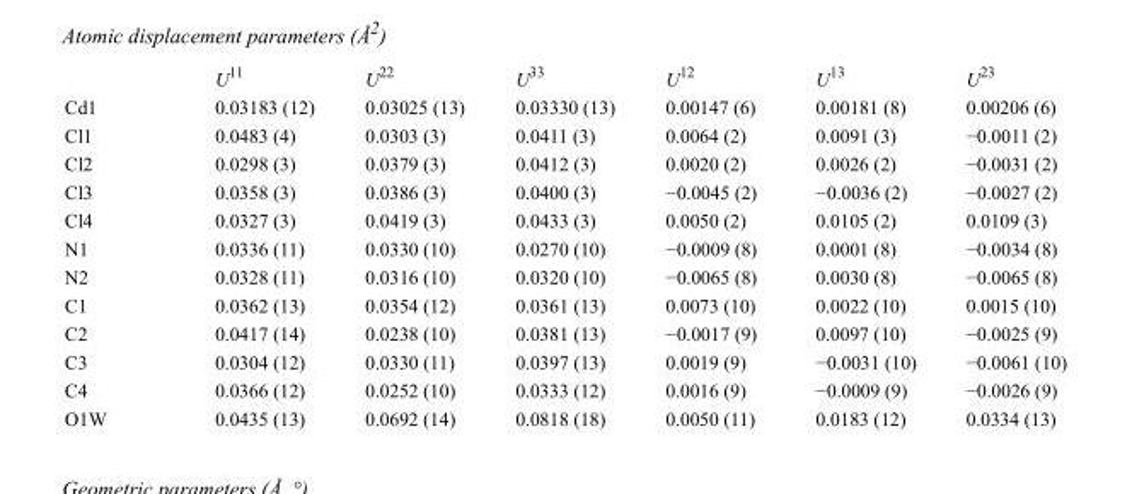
<table><thead><tr><td></td><td>U<sup>11</sup></td><td>U<sup>22</sup></td><td>U<sup>33</sup></td><td>U<sup>12</sup></td><td>U<sup>13</sup></td><td>U<sup>23</sup></td></tr></thead><tbody><tr><td>Cd1</td><td>0.03183 (12)</td><td>0.03025 (13)</td><td>0.03330 (13)</td><td>0.00147 (6)</td><td>0.00181 (8)</td><td>0.00206 (6)</td></tr><tr><td>Cl1</td><td>0.0483 (4)</td><td>0.0303 (3)</td><td>0.0411 (3)</td><td>0.0064 (2)</td><td>0.0091 (3)</td><td>−0.0011 (2)</td></tr><tr><td>Cl2</td><td>0.0298 (3)</td><td>0.0379 (3)</td><td>0.0412 (3)</td><td>0.0020 (2)</td><td>0.0026 (2)</td><td>−0.0031 (2)</td></tr><tr><td>Cl3</td><td>0.0358 (3)</td><td>0.0386 (3)</td><td>0.0400 (3)</td><td>−0.0045 (2)</td><td>−0.0036 (2)</td><td>−0.0027 (2)</td></tr><tr><td>Cl4</td><td>0.0327 (3)</td><td>0.0419 (3)</td><td>0.0433 (3)</td><td>0.0050 (2)</td><td>0.0105 (2)</td><td>0.0109 (3)</td></tr><tr><td>N1</td><td>0.0336 (11)</td><td>0.0330 (10)</td><td>0.0270 (10)</td><td>−0.0009 (8)</td><td>0.0001 (8)</td><td>−0.0034 (8)</td></tr><tr><td>N2</td><td>0.0328 (11)</td><td>0.0316 (10)</td><td>0.0320 (10)</td><td>−0.0065 (8)</td><td>0.0030 (8)</td><td>−0.0065 (8)</td></tr><tr><td>C1</td><td>0.0362 (13)</td><td>0.0354 (12)</td><td>0.0361 (13)</td><td>0.0073 (10)</td><td>0.0022 (10)</td><td>0.0015 (10)</td></tr><tr><td>C2</td><td>0.0417 (14)</td><td>0.0238 (10)</td><td>0.0381 (13)</td><td>−0.0017 (9)</td><td>0.0097 (10)</td><td>−0.0025 (9)</td></tr><tr><td>C3</td><td>0.0304 (12)</td><td>0.0330 (11)</td><td>0.0397 (13)</td><td>0.0019 (9)</td><td>−0.0031 (10)</td><td>−0.0061 (10)</td></tr><tr><td>C4</td><td>0.0366 (12)</td><td>0.0252 (10)</td><td>0.0333 (12)</td><td>0.0016 (9)</td><td>−0.0009 (9)</td><td>−0.0026 (9)</td></tr><tr><td>O1W</td><td>0.0435 (13)</td><td>0.0692 (14)</td><td>0.0818 (18)</td><td>0.0050 (11)</td><td>0.0183 (12)</td><td>0.0334 (13)</td></tr></tbody></table>